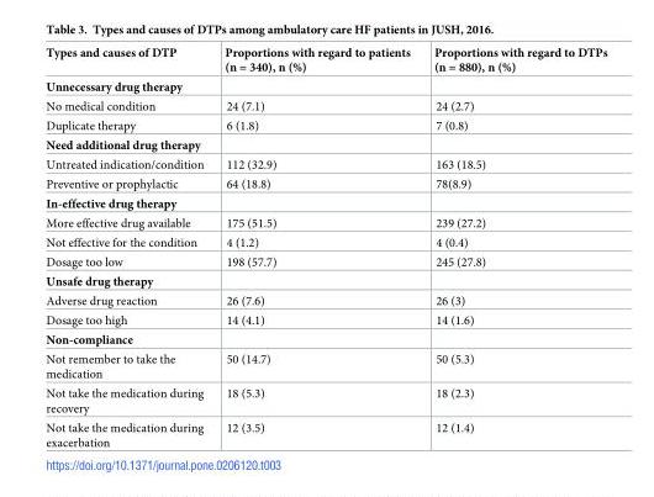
<table><thead><tr><td>Types and causes of DTP</td><td>Proportions with regard to patients (n = 340), n (%)</td><td>Proportions with regard to DTPs (n = 880), n (%)</td></tr></thead><tbody><tr><td colspan="3">Unnecessary drug therapy</td></tr><tr><td>No medical condition</td><td>24 (7.1)</td><td>24 (2.7)</td></tr><tr><td>Duplicate therapy</td><td>6 (1.8)</td><td>7 (0.8)</td></tr><tr><td colspan="3">Need additional drug therapy</td></tr><tr><td>Untreated indication/condition</td><td>112 (32.9)</td><td>163 (18.5)</td></tr><tr><td>Preventive or prophylactic</td><td>64 (18.8)</td><td>78(8.9)</td></tr><tr><td colspan="3">In-effective drug therapy</td></tr><tr><td>More effective drug available</td><td>175 (51.5)</td><td>239 (27.2)</td></tr><tr><td>Not effective for the condition</td><td>4 (1.2)</td><td>4 (0.4)</td></tr><tr><td>Dosage too low</td><td>198 (57.7)</td><td>245 (27.8)</td></tr><tr><td colspan="3">Unsafe drug therapy</td></tr><tr><td>Adverse drug reaction</td><td>26 (7.6)</td><td>26 (3)</td></tr><tr><td>Dosage too high</td><td>14 (4.1)</td><td>14 (1.6)</td></tr><tr><td colspan="3">Non-compliance</td></tr><tr><td>Not remember to take the medication</td><td>50 (14.7)</td><td>50 (5.3)</td></tr><tr><td>Not take the medication during recovery</td><td>18 (5.3)</td><td>18 (2.3)</td></tr><tr><td>Not take the medication during exacerbation</td><td>12 (3.5)</td><td>12 (1.4)</td></tr></tbody></table>